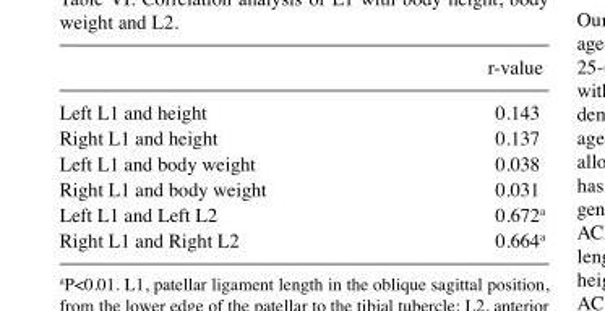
<table><thead><tr><td></td><td>r-value</td></tr></thead><tbody><tr><td>Left L1 and height</td><td>0.143</td></tr><tr><td>Right L1 and height</td><td>0.137</td></tr><tr><td>Left L1 and body weight</td><td>0.038</td></tr><tr><td>Right L1 and body weight</td><td>0.031</td></tr><tr><td>Left L1 and Left L2</td><td>0.672<sup>a</sup></td></tr><tr><td>Right L1 and Right L2</td><td>0.664<sup>a</sup></td></tr></tbody></table>